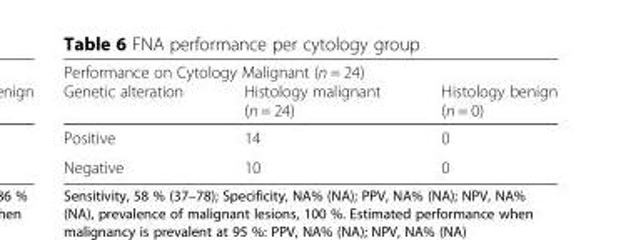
<table><thead><tr><td colspan="3">Performance on Cytology Malignant (n = 24)</td></tr><tr><td>Genetic alteration</td><td>Histology malignant (n = 24)</td><td>Histology benign (n = 0)</td></tr></thead><tbody><tr><td>Positive</td><td>14</td><td>0</td></tr><tr><td>Negative</td><td>10</td><td>0</td></tr></tbody></table>